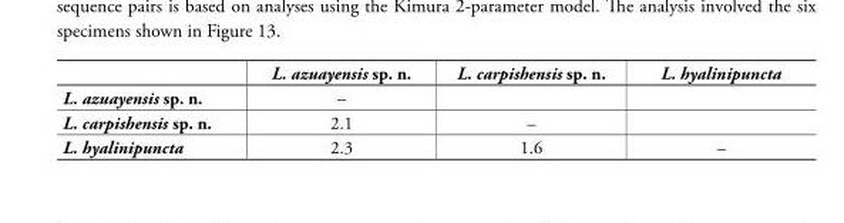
<table><thead><tr><td></td><td>L. azuayensis sp. n.</td><td>L. carpishensis sp. n.</td><td>L. hyalinipuncta</td></tr></thead><tbody><tr><td>L. azuayensis sp. n.</td><td>–</td><td></td><td></td></tr><tr><td>L. carpishensis sp. n.</td><td>2.1</td><td>–</td><td></td></tr><tr><td>L. hyalinipuncta</td><td>2.3</td><td>1.6</td><td>–</td></tr></tbody></table>